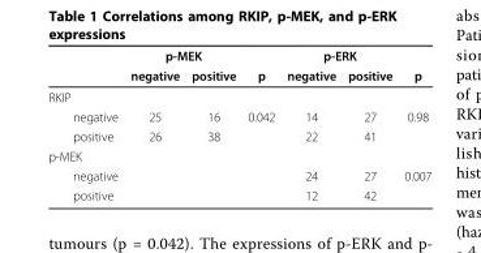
<table><thead><tr><td rowspan="2"></td><td colspan="2">p-MEK</td><td rowspan="2">p</td><td colspan="2">p-ERK</td><td rowspan="2">p</td></tr><tr><td>negative</td><td>positive</td><td>negative</td><td>positive</td></tr></thead><tbody><tr><td colspan="7">RKIP</td></tr><tr><td>negative</td><td>25</td><td>16</td><td>0.042</td><td>14</td><td>27</td><td>0.98</td></tr><tr><td>positive</td><td>26</td><td>38</td><td></td><td>22</td><td>41</td><td></td></tr><tr><td colspan="7">p-MEK</td></tr><tr><td>negative</td><td></td><td></td><td></td><td>24</td><td>27</td><td>0.007</td></tr><tr><td>positive</td><td></td><td></td><td></td><td>12</td><td>42</td><td></td></tr></tbody></table>